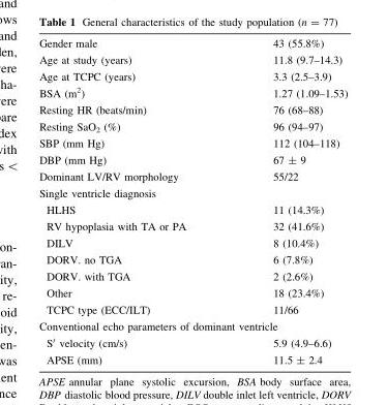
<table><tbody><tr><td>Gender male</td><td>43 (55.8%)</td></tr><tr><td>Age at study (years)</td><td>11.8 (9.7–14.3)</td></tr><tr><td>Age at TCPC (years)</td><td>3.3 (2.5–3.9)</td></tr><tr><td>BSA (m<sup>2</sup>)</td><td>1.27 (1.09–1.53)</td></tr><tr><td>Resting HR (beats/min)</td><td>76 (68–88)</td></tr><tr><td>Resting SaO<sub>2</sub> (%)</td><td>96 (94–97)</td></tr><tr><td>SBP (mm Hg)</td><td>112 (104–118)</td></tr><tr><td>DBP (mm Hg)</td><td>67 ± 9</td></tr><tr><td>Dominant LV/RV morphology</td><td>55/22</td></tr><tr><td colspan="2">Single ventricle diagnosis</td></tr><tr><td>HLHS</td><td>11 (14.3%)</td></tr><tr><td>RV hypoplasia with TA or PA</td><td>32 (41.6%)</td></tr><tr><td>DILV</td><td>8 (10.4%)</td></tr><tr><td>DORV. no TGA</td><td>6 (7.8%)</td></tr><tr><td>DORV. with TGA</td><td>2 (2.6%)</td></tr><tr><td>Other</td><td>18 (23.4%)</td></tr><tr><td>TCPC type (ECC/ILT)</td><td>11/66</td></tr><tr><td colspan="2">Conventional echo parameters of dominant ventricle</td></tr><tr><td>S′ velocity (cm/s)</td><td>5.9 (4.9–6.6)</td></tr><tr><td>APSE (mm)</td><td>11.5 ± 2.4</td></tr></tbody></table>